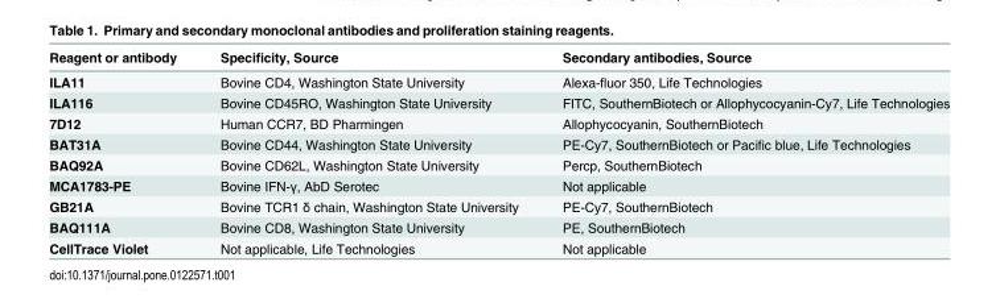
<table><thead><tr><td>Reagent or antibody</td><td>Specificity, Source</td><td>Secondary antibodies, Source</td></tr></thead><tbody><tr><td>ILA11</td><td>Bovine CD4, Washington State University</td><td>Alexa-fluor 350, Life Technologies</td></tr><tr><td>ILA116</td><td>Bovine CD45RO, Washington State University</td><td>FITC, SouthernBiotech or Allophycocyanin-Cy7, Life Technologies</td></tr><tr><td>7D12</td><td>Human CCR7, BD Pharmingen</td><td>Allophycocyanin, SouthernBiotech</td></tr><tr><td>BAT31A</td><td>Bovine CD44, Washington State University</td><td>PE-Cy7, SouthernBiotech or Pacific blue, Life Technologies</td></tr><tr><td>BAQ92A</td><td>Bovine CD62L, Washington State University</td><td>Percp, SouthernBiotech</td></tr><tr><td>MCA1783-PE</td><td>Bovine IFN-γ, AbD Serotec</td><td>Not applicable</td></tr><tr><td>GB21A</td><td>Bovine TCR1 δ chain, Washington State University</td><td>PE-Cy7, SouthernBiotech</td></tr><tr><td>BAQ111A</td><td>Bovine CD8, Washington State University</td><td>PE, SouthernBiotech</td></tr><tr><td>CellTrace Violet</td><td>Not applicable, Life Technologies</td><td>Not applicable</td></tr></tbody></table>